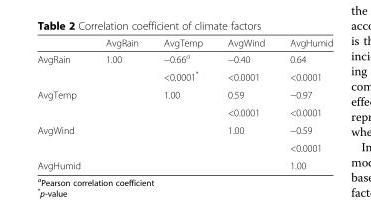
<table><thead><tr><td></td><td>AvgRain</td><td>AvgTemp</td><td>AvgWind</td><td>AvgHumid</td></tr></thead><tbody><tr><td rowspan="2">AvgRain</td><td>1.00</td><td>−0.66<sup>a</sup></td><td>−0.40</td><td>0.64</td></tr><tr><td></td><td>&lt;0.0001*</td><td>&lt;0.0001</td><td>&lt;0.0001</td></tr><tr><td rowspan="2">AvgTemp</td><td></td><td>1.00</td><td>0.59</td><td>−0.97</td></tr><tr><td></td><td></td><td>&lt;0.0001</td><td>&lt;0.0001</td></tr><tr><td rowspan="2">AvgWind</td><td></td><td></td><td>1.00</td><td>−0.59</td></tr><tr><td></td><td></td><td></td><td>&lt;0.0001</td></tr><tr><td>AvgHumid</td><td></td><td></td><td></td><td>1.00</td></tr></tbody></table>